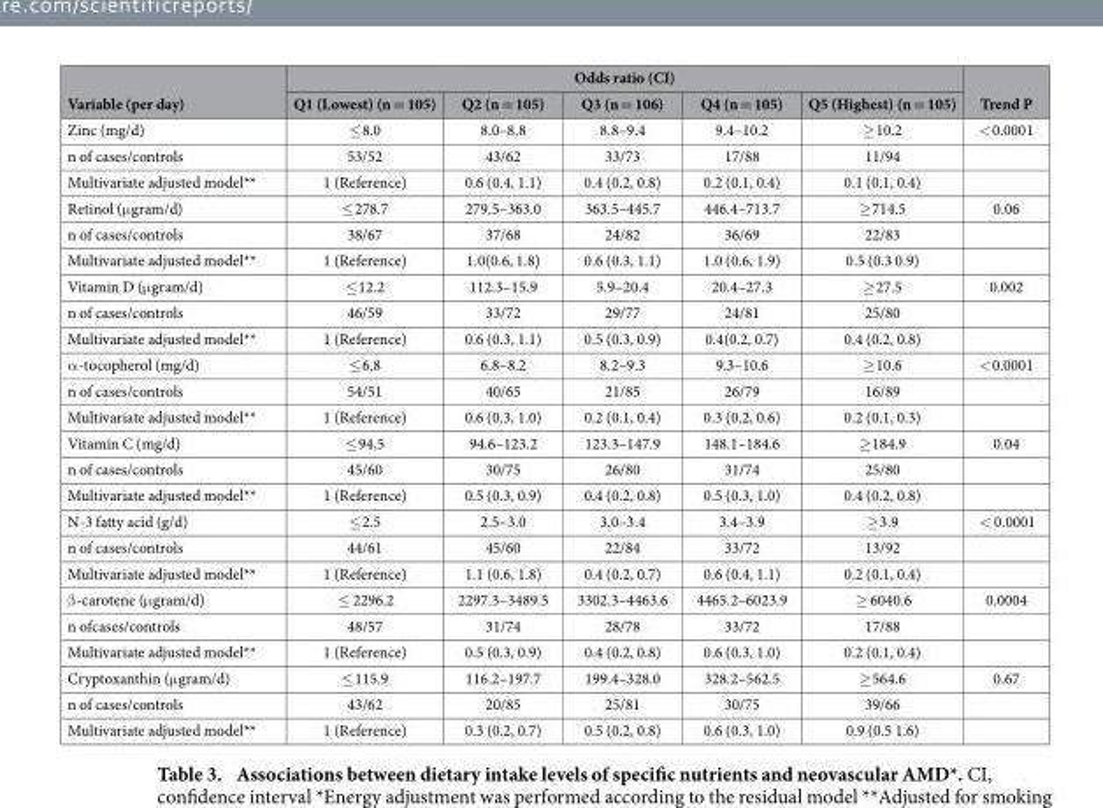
<table><thead><tr><td rowspan="2">Variable (per day)</td><td colspan="5">Odds ratio (CI)</td><td rowspan="2">Trend P</td></tr><tr><td>Q1 (Lowest) (n = 105)</td><td>Q2 (n = 105)</td><td>Q3 (n = 106)</td><td>Q4 (n = 105)</td><td>Q5 (Highest) (n = 105)</td></tr></thead><tbody><tr><td>Zinc (mg/d)</td><td>≤ 8.0</td><td>8.0–8.8</td><td>8.8–9.4</td><td>9.4–10.2</td><td>≥ 10.2</td><td>&lt; 0.0001</td></tr><tr><td>n of cases/controls</td><td>53/52</td><td>43/62</td><td>33/73</td><td>17/88</td><td>11/94</td><td></td></tr><tr><td>Multivariate adjusted model**</td><td>1 (Reference)</td><td>0.6 (0.4, 1.1)</td><td>0.4 (0.2, 0.8)</td><td>0.2 (0.1, 0.4)</td><td>0.1 (0.1, 0.4)</td><td></td></tr><tr><td>Retinol (μ gram/d)</td><td>≤ 278.7</td><td>279.5–363.0</td><td>363.5–445.7</td><td>446.4–713.7</td><td>≥ 714.5</td><td>0.06</td></tr><tr><td>n of cases/controls</td><td>38/67</td><td>37/68</td><td>24/82</td><td>36/69</td><td>22/83</td><td></td></tr><tr><td>Multivariate adjusted model**</td><td>1 (Reference)</td><td>1.0(0.6, 1.8)</td><td>0.6 (0.3, 1.1)</td><td>1.0 (0.6, 1.9)</td><td>0.5 (0.3 0.9)</td><td></td></tr><tr><td>Vitamin D (μ gram/d)</td><td>≤ 12.2</td><td>112.3–15.9</td><td>5.9–20.4</td><td>20.4–27.3</td><td>≥ 27.5</td><td>0.002</td></tr><tr><td>n of cases/controls</td><td>46/59</td><td>33/72</td><td>29/77</td><td>24/81</td><td>25/80</td><td></td></tr><tr><td>Multivariate adjusted model**</td><td>1 (Reference)</td><td>0.6 (0.3, 1.1)</td><td>0.5 (0.3, 0.9)</td><td>0.4(0.2, 0.7)</td><td>0.4 (0.2, 0.8)</td><td></td></tr><tr><td>α -tocopherol (mg/d)</td><td>≤ 6.8</td><td>6.8–8.2</td><td>8.2–9.3</td><td>9.3–10.6</td><td>≥ 10.6</td><td>&lt; 0.0001</td></tr><tr><td>n of cases/controls</td><td>54/51</td><td>40/65</td><td>21/85</td><td>26/79</td><td>16/89</td><td></td></tr><tr><td>Multivariate adjusted model**</td><td>1 (Reference)</td><td>0.6 (0.3, 1.0)</td><td>0.2 (0.1, 0.4)</td><td>0.3 (0.2, 0.6)</td><td>0.2 (0.1, 0.3)</td><td></td></tr><tr><td>Vitamin C (mg/d)</td><td>≤ 94,5</td><td>94.6–123.2</td><td>123.3–147.9</td><td>148.1–184.6</td><td>≥ 184.9</td><td>0.04</td></tr><tr><td>n of cases/controls</td><td>45/60</td><td>30/75</td><td>26/80</td><td>31/74</td><td>25/80</td><td></td></tr><tr><td>Multivariate adjusted model**</td><td>1 (Reference)</td><td>0.5 (0.3, 0.9)</td><td>0.4 (0.2, 0.8)</td><td>0.5 (0.3, 1.0)</td><td>0.4 (0.2, 0.8)</td><td></td></tr><tr><td>N-3 fatty acid (g/d)</td><td>≤ 2.5</td><td>2.5–3.0</td><td>3.0–3.4</td><td>3.4–3.9</td><td>≥ 3.9</td><td>&lt; 0.0001</td></tr><tr><td>n of cases/controls</td><td>44/61</td><td>45/60</td><td>22/84</td><td>33/72</td><td>13/92</td><td></td></tr><tr><td>Multivariate adjusted model**</td><td>1 (Reference)</td><td>1.1 (0.6, 1.8)</td><td>0.4 (0.2, 0.7)</td><td>0.6 (0.4, 1.1)</td><td>0.2 (0.1, 0.4)</td><td></td></tr><tr><td>β -carotene (μ gram/d)</td><td>≤ 2296.2</td><td>2297.3–3489.5</td><td>3302.3–4463.6</td><td>4465.2–6023.9</td><td>≥ 6040.6</td><td>0.0004</td></tr><tr><td>n ofcases/controls</td><td>48/57</td><td>31/74</td><td>28/78</td><td>33/72</td><td>17/88</td><td></td></tr><tr><td>Multivariate adjusted model**</td><td>1 (Reference)</td><td>0.5 (0.3, 0.9)</td><td>0.4 (0.2, 0.8)</td><td>0.6 (0.3, 1.0)</td><td>0.2 (0.1, 0.4)</td><td></td></tr><tr><td>Cryptoxanthin (μ gram/d)</td><td>≤ 115.9</td><td>116.2–197.7</td><td>199.4–328.0</td><td>328.2–562.5</td><td>≥ 564.6</td><td>0.67</td></tr><tr><td>n of cases/controls</td><td>43/62</td><td>20/85</td><td>25/81</td><td>30/75</td><td>39/66</td><td></td></tr><tr><td>Multivariate adjusted model**</td><td>1 (Reference)</td><td>0.3 (0.2, 0.7)</td><td>0.5 (0.2, 0.8)</td><td>0.6 (0.3, 1.0)</td><td>0.9 (0.5 1.6)</td><td></td></tr></tbody></table>